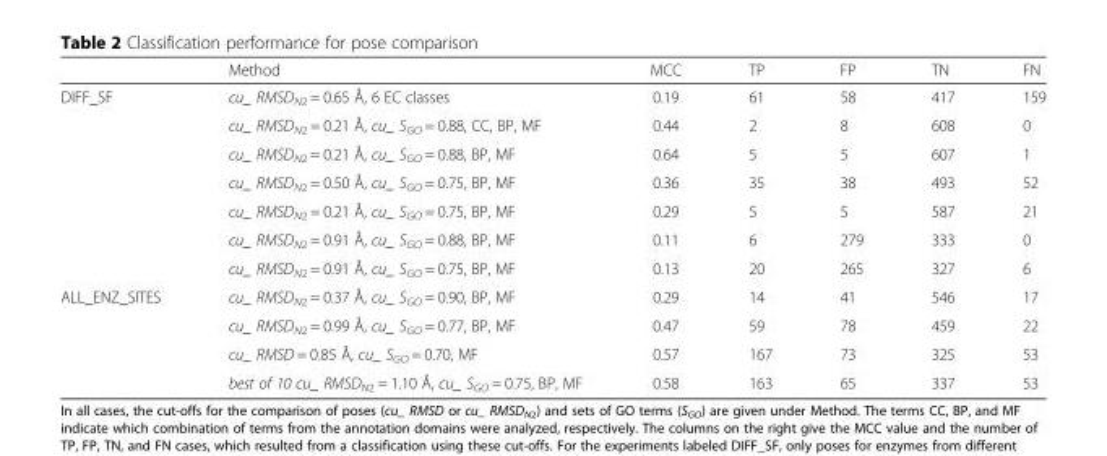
<table><thead><tr><td></td><td>Method</td><td>MCC</td><td>TP</td><td>FP</td><td>TN</td><td>FN</td></tr></thead><tbody><tr><td rowspan="7">DIFF_SF</td><td>cu_ RMSD<sub>N2</sub> = 0.65 Å, 6 EC classes</td><td>0.19</td><td>61</td><td>58</td><td>417</td><td>159</td></tr><tr><td>cu_ RMSD<sub>N2</sub> = 0.21 Å, cu_ S<sub>GO</sub> = 0.88, CC, BP, MF</td><td>0.44</td><td>2</td><td>8</td><td>608</td><td>0</td></tr><tr><td>cu_ RMSD<sub>N2</sub> = 0.21 Å, cu_ S<sub>GO</sub> = 0.88, BP, MF</td><td>0.64</td><td>5</td><td>5</td><td>607</td><td>1</td></tr><tr><td>cu_ RMSD<sub>N2</sub> = 0.50 Å, cu_ S<sub>GO</sub> = 0.75, BP, MF</td><td>0.36</td><td>35</td><td>38</td><td>493</td><td>52</td></tr><tr><td>cu_ RMSD<sub>N2</sub> = 0.21 Å, cu_ S<sub>GO</sub> = 0.75, BP, MF</td><td>0.29</td><td>5</td><td>5</td><td>587</td><td>21</td></tr><tr><td>cu_ RMSD<sub>N2</sub> = 0.91 Å, cu_ S<sub>GO</sub> = 0.88, BP, MF</td><td>0.11</td><td>6</td><td>279</td><td>333</td><td>0</td></tr><tr><td>cu_ RMSD<sub>N2</sub> = 0.91 Å, cu_ S<sub>GO</sub> = 0.75, BP, MF</td><td>0.13</td><td>20</td><td>265</td><td>327</td><td>6</td></tr><tr><td rowspan="4">ALL_ENZ_SITES</td><td>cu_ RMSD<sub>N2</sub> = 0.37 Å, cu_ S<sub>GO</sub> = 0.90, BP, MF</td><td>0.29</td><td>14</td><td>41</td><td>546</td><td>17</td></tr><tr><td>cu_ RMSD<sub>N2</sub> = 0.99 Å, cu_ S<sub>GO</sub> = 0.77, BP, MF</td><td>0.47</td><td>59</td><td>78</td><td>459</td><td>22</td></tr><tr><td>cu_ RMSD = 0.85 Å, cu_ S<sub>GO</sub> = 0.70, MF</td><td>0.57</td><td>167</td><td>73</td><td>325</td><td>53</td></tr><tr><td>best of 10 cu_ RMSD<sub>N2</sub> = 1.10 Å, cu_ S<sub>GO</sub> = 0.75, BP, MF</td><td>0.58</td><td>163</td><td>65</td><td>337</td><td>53</td></tr></tbody></table>